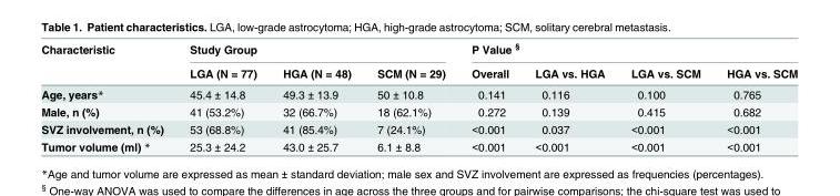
<table><thead><tr><td rowspan="2">Characteristic</td><td colspan="3">Study Group</td><td colspan="4">P Value <sup>§</sup></td></tr><tr><td>LGA (N = 77)</td><td>HGA (N = 48)</td><td>SCM (N = 29)</td><td>Overall</td><td>LGA vs. HGA</td><td>LGA vs. SCM</td><td>HGA vs. SCM</td></tr></thead><tbody><tr><td>Age, years*</td><td>45.4 ± 14.8</td><td>49.3 ± 13.9</td><td>50 ± 10.8</td><td>0.141</td><td>0.116</td><td>0.100</td><td>0.765</td></tr><tr><td>Male, n (%)</td><td>41 (53.2%)</td><td>32 (66.7%)</td><td>18 (62.1%)</td><td>0.272</td><td>0.139</td><td>0.415</td><td>0.682</td></tr><tr><td>SVZ involvement, n (%)</td><td>53 (68.8%)</td><td>41 (85.4%)</td><td>7 (24.1%)</td><td>&lt;0.001</td><td>0.037</td><td>&lt;0.001</td><td>&lt;0.001</td></tr><tr><td>Tumor volume (ml) *</td><td>25.3 ± 24.2</td><td>43.0 ± 25.7</td><td>6.1 ± 8.8</td><td>&lt;0.001</td><td>&lt;0.001</td><td>&lt;0.001</td><td>&lt;0.001</td></tr></tbody></table>